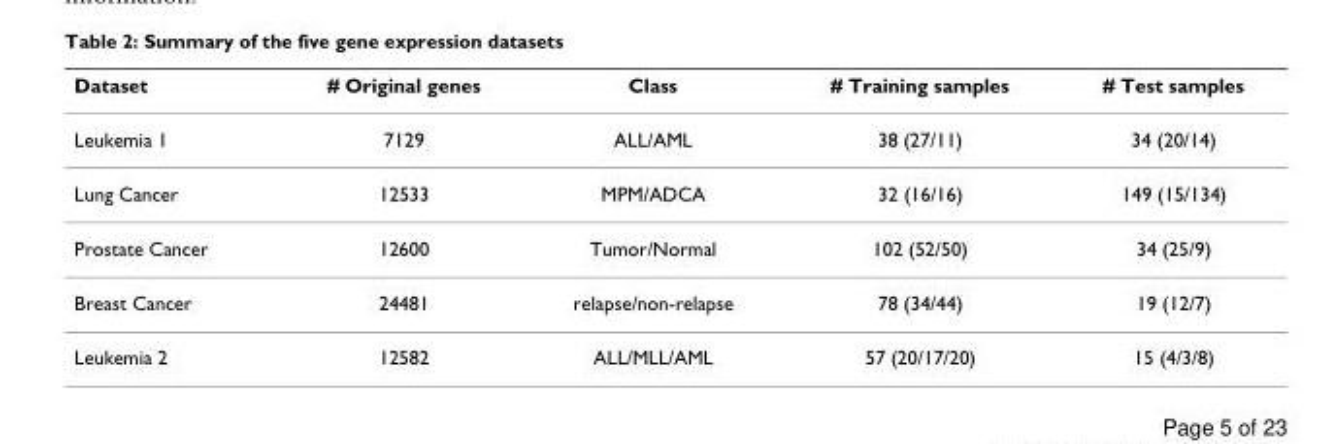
<table><thead><tr><td>Dataset</td><td># Original genes</td><td>Class</td><td># Training samples</td><td># Test samples</td></tr></thead><tbody><tr><td>Leukemia 1</td><td>7129</td><td>ALL/AML</td><td>38 (27/11)</td><td>34 (20/14)</td></tr><tr><td>Lung Cancer</td><td>12533</td><td>MPM/ADCA</td><td>32 (16/16)</td><td>149 (15/134)</td></tr><tr><td>Prostate Cancer</td><td>12600</td><td>Tumor/Normal</td><td>102 (52/50)</td><td>34 (25/9)</td></tr><tr><td>Breast Cancer</td><td>24481</td><td>relapse/non-relapse</td><td>78 (34/44)</td><td>19 (12/7)</td></tr><tr><td>Leukemia 2</td><td>12582</td><td>ALL/MLL/AML</td><td>57 (20/17/20)</td><td>15 (4/3/8)</td></tr></tbody></table>